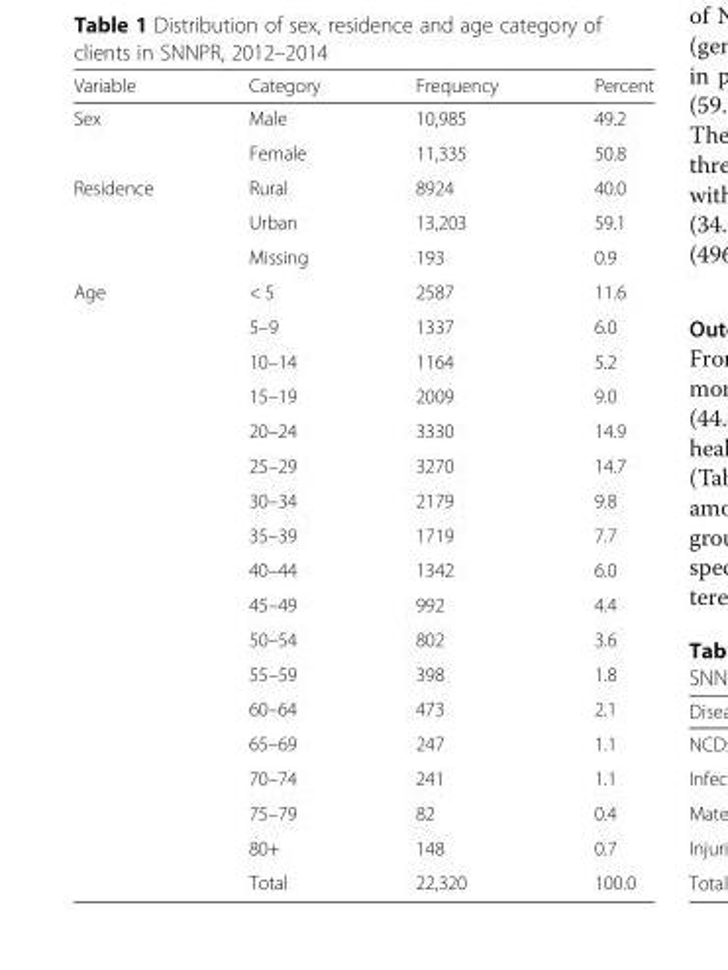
<table><thead><tr><td>Variable</td><td>Category</td><td>Frequency</td><td>Percent</td></tr></thead><tbody><tr><td rowspan="2">Sex</td><td>Male</td><td>10,985</td><td>49.2</td></tr><tr><td>Female</td><td>11,335</td><td>50.8</td></tr><tr><td rowspan="3">Residence</td><td>Rural</td><td>8924</td><td>40.0</td></tr><tr><td>Urban</td><td>13,203</td><td>59.1</td></tr><tr><td>Missing</td><td>193</td><td>0.9</td></tr><tr><td rowspan="18">Age</td><td>&lt; 5</td><td>2587</td><td>11.6</td></tr><tr><td>5–9</td><td>1337</td><td>6.0</td></tr><tr><td>10–14</td><td>1164</td><td>5.2</td></tr><tr><td>15–19</td><td>2009</td><td>9.0</td></tr><tr><td>20–24</td><td>3330</td><td>14.9</td></tr><tr><td>25–29</td><td>3270</td><td>14.7</td></tr><tr><td>30–34</td><td>2179</td><td>9.8</td></tr><tr><td>35–39</td><td>1719</td><td>7.7</td></tr><tr><td>40–44</td><td>1342</td><td>6.0</td></tr><tr><td>45–49</td><td>992</td><td>4.4</td></tr><tr><td>50–54</td><td>802</td><td>3.6</td></tr><tr><td>55–59</td><td>398</td><td>1.8</td></tr><tr><td>60–64</td><td>473</td><td>2.1</td></tr><tr><td>65–69</td><td>247</td><td>1.1</td></tr><tr><td>70–74</td><td>241</td><td>1.1</td></tr><tr><td>75–79</td><td>82</td><td>0.4</td></tr><tr><td>80+</td><td>148</td><td>0.7</td></tr><tr><td>Total</td><td>22,320</td><td>100.0</td></tr></tbody></table>